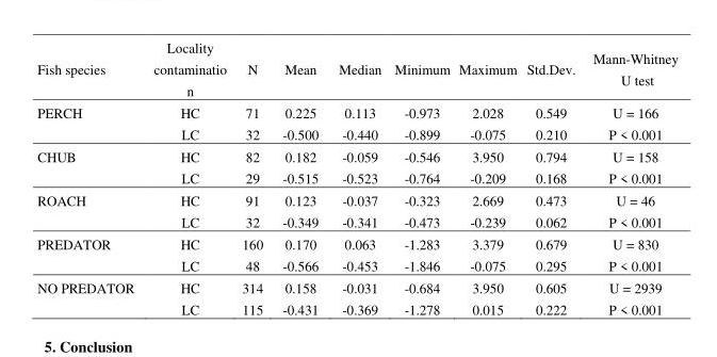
<table><thead><tr><td>Fish species</td><td>Locality contaminatio n</td><td>N</td><td>Mean</td><td>Median</td><td>Minimum</td><td>Maximum</td><td>Std.Dev.</td><td>Mann-Whitney U test</td></tr></thead><tbody><tr><td rowspan="2">PERCH</td><td>HC</td><td>71</td><td>0.225</td><td>0.113</td><td>-0.973</td><td>2.028</td><td>0.549</td><td>U = 166</td></tr><tr><td>LC</td><td>32</td><td>-0.500</td><td>-0.440</td><td>-0.899</td><td>-0.075</td><td>0.210</td><td>P &lt; 0.001</td></tr><tr><td rowspan="2">CHUB</td><td>HC</td><td>82</td><td>0.182</td><td>-0.059</td><td>-0.546</td><td>3.950</td><td>0.794</td><td>U = 158</td></tr><tr><td>LC</td><td>29</td><td>-0.515</td><td>-0.523</td><td>-0.764</td><td>-0.209</td><td>0.168</td><td>P &lt; 0.001</td></tr><tr><td rowspan="2">ROACH</td><td>HC</td><td>91</td><td>0.123</td><td>-0.037</td><td>-0.323</td><td>2.669</td><td>0.473</td><td>U = 46</td></tr><tr><td>LC</td><td>32</td><td>-0.349</td><td>-0.341</td><td>-0.473</td><td>-0.239</td><td>0.062</td><td>P &lt; 0.001</td></tr><tr><td rowspan="2">PREDATOR</td><td>HC</td><td>160</td><td>0.170</td><td>0.063</td><td>-1.283</td><td>3.379</td><td>0.679</td><td>U = 830</td></tr><tr><td>LC</td><td>48</td><td>-0.566</td><td>-0.453</td><td>-1.846</td><td>-0.075</td><td>0.295</td><td>P &lt; 0.001</td></tr><tr><td rowspan="2">NO PREDATOR</td><td>HC</td><td>314</td><td>0.158</td><td>-0.031</td><td>-0.684</td><td>3.950</td><td>0.605</td><td>U = 2939</td></tr><tr><td>LC</td><td>115</td><td>-0.431</td><td>-0.369</td><td>-1.278</td><td>0.015</td><td>0.222</td><td>P &lt; 0.001</td></tr></tbody></table>